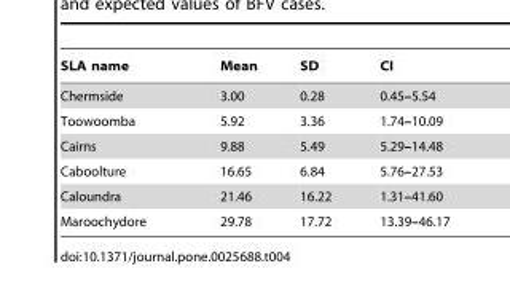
<table><thead><tr><td>SLA name</td><td>Mean</td><td>SD</td><td>CI</td></tr></thead><tbody><tr><td>Chermside</td><td>3.00</td><td>0.28</td><td>0.45–5.54</td></tr><tr><td>Toowoomba</td><td>5.92</td><td>3.36</td><td>1.74–10.09</td></tr><tr><td>Cairns</td><td>9.88</td><td>5.49</td><td>5.29–14.48</td></tr><tr><td>Caboolture</td><td>16.65</td><td>6.84</td><td>5.76–27.53</td></tr><tr><td>Caloundra</td><td>21.46</td><td>16.22</td><td>1.31–41.60</td></tr><tr><td>Maroochydore</td><td>29.78</td><td>17.72</td><td>13.39–46.17</td></tr></tbody></table>